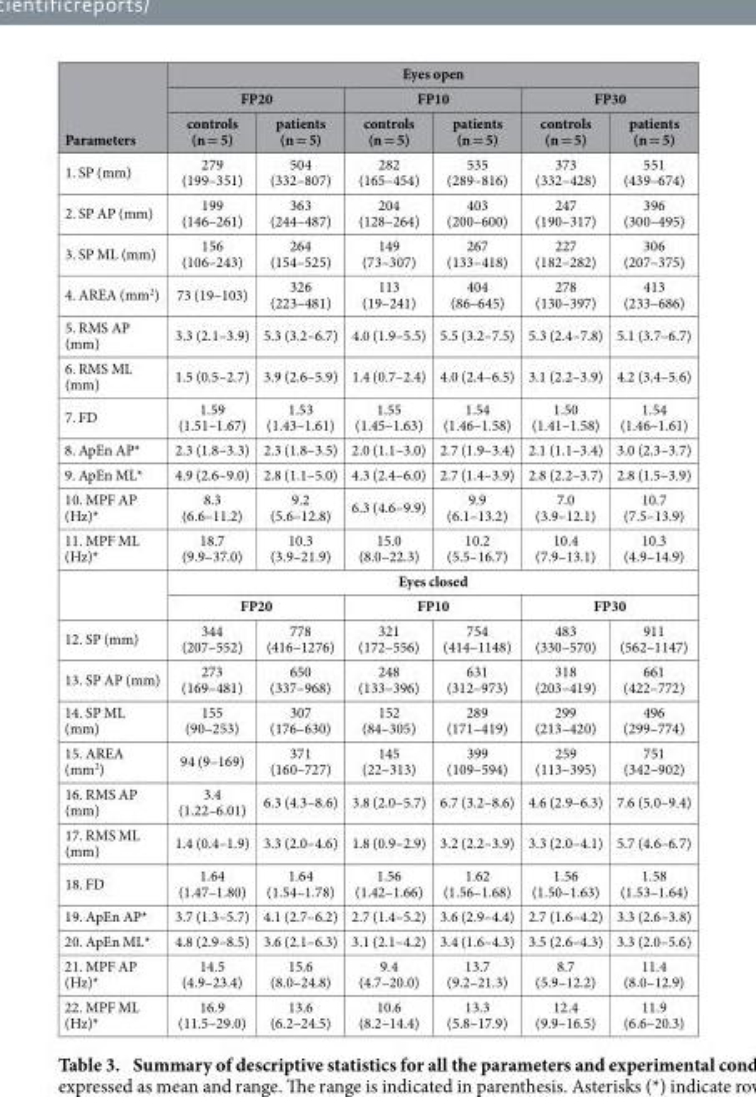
<table><thead><tr><td rowspan="3">Parameters</td><td colspan="6">Eyes open</td></tr><tr><td colspan="2">FP20</td><td colspan="2">FP10</td><td colspan="2">FP30</td></tr><tr><td>controls (n = 5)</td><td>patients (n = 5)</td><td>controls (n = 5)</td><td>patients (n = 5)</td><td>controls (n = 5)</td><td>patients (n = 5)</td></tr></thead><tbody><tr><td>1. SP (mm)</td><td>279 (199–351)</td><td>504 (332–807)</td><td>282 (165–454)</td><td>535 (289–816)</td><td>373 (332–428)</td><td>551 (439–674)</td></tr><tr><td>2. SP AP (mm)</td><td>199 (146–261)</td><td>363 (244–487)</td><td>204 (128–264)</td><td>403 (200–600)</td><td>247 (190–317)</td><td>396 (300–495)</td></tr><tr><td>3. SP ML (mm)</td><td>156 (106–243)</td><td>264 (154–525)</td><td>149 (73–307)</td><td>267 (133–418)</td><td>227 (182–282)</td><td>306 (207–375)</td></tr><tr><td>4. AREA (mm<sup>2</sup>)</td><td>73 (19–103)</td><td>326 (223–481)</td><td>113 (19–241)</td><td>404 (86–645)</td><td>278 (130–397)</td><td>413 (233–686)</td></tr><tr><td>5. RMS AP (mm)</td><td>3.3 (2.1–3.9)</td><td>5.3 (3.2–6.7)</td><td>4.0 (1.9–5.5)</td><td>5.5 (3.2–7.5)</td><td>5.3 (2.4–7.8)</td><td>5.1 (3.7–6.7)</td></tr><tr><td>6. RMS ML (mm)</td><td>1.5 (0.5–2.7)</td><td>3.9 (2.6–5.9)</td><td>1.4 (0.7–2.4)</td><td>4.0 (2.4–6.5)</td><td>3.1 (2.2–3.9)</td><td>4.2 (3.4–5.6)</td></tr><tr><td>7. FD</td><td>1.59 (1.51–1.67)</td><td>1.53 (1.43–1.61)</td><td>1.55 (1.45–1.63)</td><td>1.54 (1.46–1.58)</td><td>1.50 (1.41–1.58)</td><td>1.54 (1.46–1.61)</td></tr><tr><td>8. ApEn AP*</td><td>2.3 (1.8–3.3)</td><td>2.3 (1.8–3.5)</td><td>2.0 (1.1–3.0)</td><td>2.7 (1.9–3.4)</td><td>2.1 (1.1–3.4)</td><td>3.0 (2.3–3.7)</td></tr><tr><td>9. ApEn ML*</td><td>4.9 (2.6–9.0)</td><td>2.8 (1.1–5.0)</td><td>4.3 (2.4–6.0)</td><td>2.7 (1.4–3.9)</td><td>2.8 (2.2–3.7)</td><td>2.8 (1.5–3.9)</td></tr><tr><td>10. MPF AP (Hz)*</td><td>8.3 (6.6–11.2)</td><td>9.2 (5.6–12.8)</td><td>6.3 (4.6–9.9)</td><td>9.9 (6.1–13.2)</td><td>7.0 (3.9–12.1)</td><td>10.7 (7.5–13.9)</td></tr><tr><td rowspan="3">11. MPF ML (Hz)*</td><td>18.7 (9.9–37.0)</td><td>10.3 (3.9–21.9)</td><td>15.0 (8.0–22.3)</td><td>10.2 (5.5–16.7)</td><td>10.4 (7.9–13.1)</td><td>10.3 (4.9–14.9)</td></tr><tr><td colspan="6">Eyes closed</td></tr><tr><td colspan="2">FP20</td><td colspan="2">FP10</td><td colspan="2">FP30</td></tr><tr><td>12. SP (mm)</td><td>344 (207–552)</td><td>778 (416–1276)</td><td>321 (172–556)</td><td>754 (414–1148)</td><td>483 (330–570)</td><td>911 (562–1147)</td></tr><tr><td>13. SP AP (mm)</td><td>273 (169–481)</td><td>650 (337–968)</td><td>248 (133–396)</td><td>631 (312–973)</td><td>318 (203–419)</td><td>661 (422–772)</td></tr><tr><td>14. SP ML (mm)</td><td>155 (90–253)</td><td>307 (176–630)</td><td>152 (84–305)</td><td>289 (171–419)</td><td>299 (213–420)</td><td>496 (299–774)</td></tr><tr><td>15. AREA (mm<sup>2</sup>)</td><td>94 (9–169)</td><td>371 (160–727)</td><td>145 (22–313)</td><td>399 (109–594)</td><td>259 (113–395)</td><td>751 (342–902)</td></tr><tr><td>16. RMS AP (mm)</td><td>3.4 (1.22–6.01)</td><td>6.3 (4.3–8.6)</td><td>3.8 (2.0–5.7)</td><td>6.7 (3.2–8.6)</td><td>4.6 (2.9–6.3)</td><td>7.6 (5.0–9.4)</td></tr><tr><td>17. RMS ML (mm)</td><td>1.4 (0.4–1.9)</td><td>3.3 (2.0–4.6)</td><td>1.8 (0.9–2.9)</td><td>3.2 (2.2–3.9)</td><td>3.3 (2.0–4.1)</td><td>5.7 (4.6–6.7)</td></tr><tr><td>18. FD</td><td>1.64 (1.47–1.80)</td><td>1.64 (1.54–1.78)</td><td>1.56 (1.42–1.66)</td><td>1.62 (1.56–1.68)</td><td>1.56 (1.50–1.63)</td><td>1.58 (1.53–1.64)</td></tr><tr><td>19. ApEn AP*</td><td>3.7 (1.3–5.7)</td><td>4.1 (2.7–6.2)</td><td>2.7 (1.4–5.2)</td><td>3.6 (2.9–4.4)</td><td>2.7 (1.6–4.2)</td><td>3.3 (2.6–3.8)</td></tr><tr><td>20. ApEn ML*</td><td>4.8 (2.9–8.5)</td><td>3.6 (2.1–6.3)</td><td>3.1 (2.1–4.2)</td><td>3.4 (1.6–4.3)</td><td>3.5 (2.6–4.3)</td><td>3.3 (2.0–5.6)</td></tr><tr><td>21. MPF AP (Hz)*</td><td>14.5 (4.9–23.4)</td><td>15.6 (8.0–24.8)</td><td>9.4 (4.7–20.0)</td><td>13.7 (9.2–21.3)</td><td>8.7 (5.9–12.2)</td><td>11.4 (8.0–12.9)</td></tr><tr><td>22. MPF ML (Hz)*</td><td>16.9 (11.5–29.0)</td><td>13.6 (6.2–24.5)</td><td>10.6 (8.2–14.4)</td><td>13.3 (5.8–17.9)</td><td>12.4 (9.9–16.5)</td><td>11.9 (6.6–20.3)</td></tr></tbody></table>